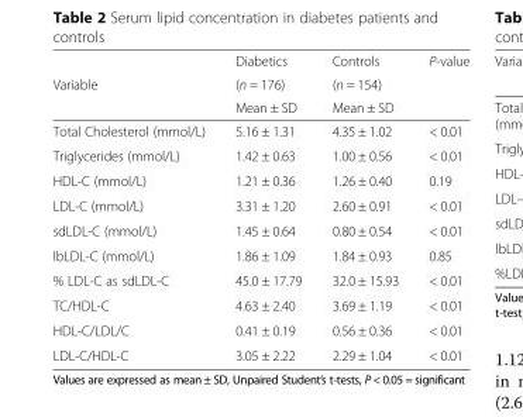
<table><thead><tr><td rowspan="3">Variable</td><td rowspan="3">Diabetics (n = 176) Mean ± SD</td><td rowspan="3">Controls (n = 154) Mean ± SD</td><td rowspan="3">P-value</td></tr><tr></tr><tr></tr></thead><tbody><tr><td>Total Cholesterol (mmol/L)</td><td>5.16 ± 1.31</td><td>4.35 ± 1.02</td><td>&lt; 0.01</td></tr><tr><td>Triglycerides (mmol/L)</td><td>1.42 ± 0.63</td><td>1.00 ± 0.56</td><td>&lt; 0.01</td></tr><tr><td>HDL-C (mmol/L)</td><td>1.21 ± 0.36</td><td>1.26 ± 0.40</td><td>0.19</td></tr><tr><td>LDL-C (mmol/L)</td><td>3.31 ± 1.20</td><td>2.60 ± 0.91</td><td>&lt; 0.01</td></tr><tr><td>sdLDL-C (mmol/L)</td><td>1.45 ± 0.64</td><td>0.80 ± 0.54</td><td>&lt; 0.01</td></tr><tr><td>lbLDL-C (mmol/L)</td><td>1.86 ± 1.09</td><td>1.84 ± 0.93</td><td>0.85</td></tr><tr><td>% LDL-C as sdLDL-C</td><td>45.0 ± 17.79</td><td>32.0 ± 15.93</td><td>&lt; 0.01</td></tr><tr><td>TC/HDL-C</td><td>4.63 ± 2.40</td><td>3.69 ± 1.19</td><td>&lt; 0.01</td></tr><tr><td>HDL-C/LDL/C</td><td>0.41 ± 0.19</td><td>0.56 ± 0.36</td><td>&lt; 0.01</td></tr><tr><td>LDL-C/HDL-C</td><td>3.05 ± 2.22</td><td>2.29 ± 1.04</td><td>&lt; 0.01</td></tr></tbody></table>